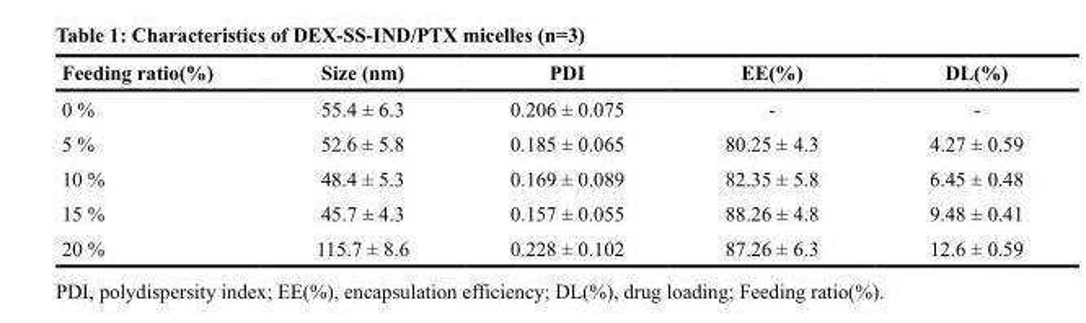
<table><thead><tr><td>Feeding ratio(%)</td><td>Size (nm)</td><td>PDI</td><td>EE(%)</td><td>DL(%)</td></tr></thead><tbody><tr><td>0 %</td><td>55.4 ± 6.3</td><td>0.206 ± 0.075</td><td>-</td><td>-</td></tr><tr><td>5 %</td><td>52.6 ± 5.8</td><td>0.185 ± 0.065</td><td>80.25 ± 4.3</td><td>4.27 ± 0.59</td></tr><tr><td>10 %</td><td>48.4 ± 5.3</td><td>0.169 ± 0.089</td><td>82.35 ± 5.8</td><td>6.45 ± 0.48</td></tr><tr><td>15 %</td><td>45.7 ± 4.3</td><td>0.157 ± 0.055</td><td>88.26 ± 4.8</td><td>9.48 ± 0.41</td></tr><tr><td>20 %</td><td>115.7 ± 8.6</td><td>0.228 ± 0.102</td><td>87.26 ± 6.3</td><td>12.6 ± 0.59</td></tr></tbody></table>